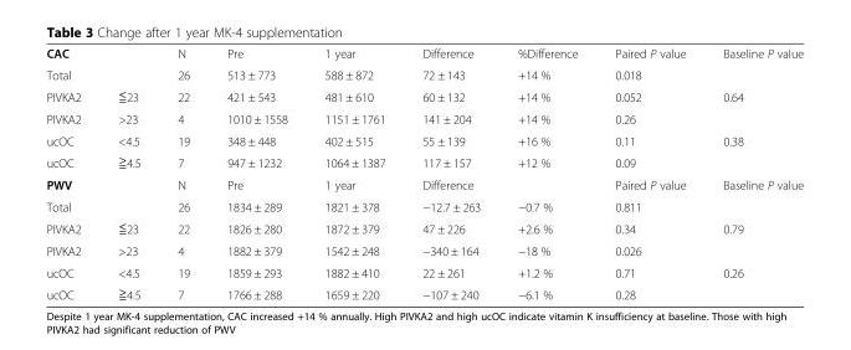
<table><tbody><tr><td>CAC</td><td></td><td>N</td><td>Pre</td><td>1 year</td><td>Difference</td><td>%Difference</td><td>Paired P value</td><td>Baseline P value</td></tr><tr><td>Total</td><td></td><td>26</td><td>513 ± 773</td><td>588 ± 872</td><td>72 ± 143</td><td>+14 %</td><td>0.018</td><td></td></tr><tr><td>PIVKA2</td><td>≦23</td><td>22</td><td>421 ± 543</td><td>481 ± 610</td><td>60 ± 132</td><td>+14 %</td><td>0.052</td><td>0.64</td></tr><tr><td>PIVKA2</td><td>&gt;23</td><td>4</td><td>1010 ± 1558</td><td>1151 ± 1761</td><td>141 ± 204</td><td>+14 %</td><td>0.26</td><td></td></tr><tr><td>ucOC</td><td>&lt;4.5</td><td>19</td><td>348 ± 448</td><td>402 ± 515</td><td>55 ± 139</td><td>+16 %</td><td>0.11</td><td>0.38</td></tr><tr><td>ucOC</td><td>≧4.5</td><td>7</td><td>947 ± 1232</td><td>1064 ± 1387</td><td>117 ± 157</td><td>+12 %</td><td>0.09</td><td></td></tr><tr><td>PWV</td><td></td><td>N</td><td>Pre</td><td>1 year</td><td>Difference</td><td></td><td>Paired P value</td><td>Baseline P value</td></tr><tr><td>Total</td><td></td><td>26</td><td>1834 ± 289</td><td>1821 ± 378</td><td>−12.7 ± 263</td><td>−0.7 %</td><td>0.811</td><td></td></tr><tr><td>PIVKA2</td><td>≦23</td><td>22</td><td>1826 ± 280</td><td>1872 ± 379</td><td>47 ± 226</td><td>+2.6 %</td><td>0.34</td><td>0.79</td></tr><tr><td>PIVKA2</td><td>&gt;23</td><td>4</td><td>1882 ± 379</td><td>1542 ± 248</td><td>−340 ± 164</td><td>−18 %</td><td>0.026</td><td></td></tr><tr><td>ucOC</td><td>&lt;4.5</td><td>19</td><td>1859 ± 293</td><td>1882 ± 410</td><td>22 ± 261</td><td>+1.2 %</td><td>0.71</td><td>0.26</td></tr><tr><td>ucOC</td><td>≧4.5</td><td>7</td><td>1766 ± 288</td><td>1659 ± 220</td><td>−107 ± 240</td><td>−6.1 %</td><td>0.28</td><td></td></tr></tbody></table>